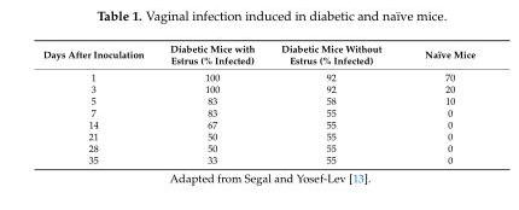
<table><thead><tr><td>Days After Inoculation</td><td>Diabetic Mice with Estrus (% Infected)</td><td>Diabetic Mice Without Estrus (% Infected)</td><td>Naïve Mice</td></tr></thead><tbody><tr><td>1</td><td>100</td><td>92</td><td>70</td></tr><tr><td>3</td><td>100</td><td>92</td><td>20</td></tr><tr><td>5</td><td>83</td><td>58</td><td>10</td></tr><tr><td>7</td><td>83</td><td>55</td><td>0</td></tr><tr><td>14</td><td>67</td><td>55</td><td>0</td></tr><tr><td>21</td><td>50</td><td>55</td><td>0</td></tr><tr><td>28</td><td>50</td><td>55</td><td>0</td></tr><tr><td>35</td><td>33</td><td>55</td><td>0</td></tr></tbody></table>